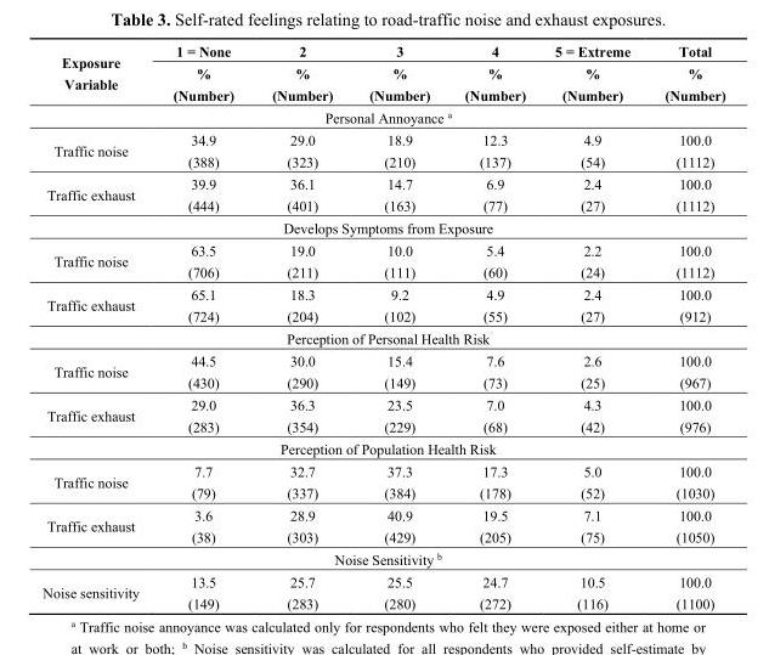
<table><thead><tr><td rowspan="2">Exposure Variable</td><td rowspan="2">1 = None % (Number)</td><td rowspan="2">2 % (Number)</td><td rowspan="2">3 % (Number)</td><td rowspan="2">4 % (Number)</td><td rowspan="2">5 = Extreme % (Number)</td><td rowspan="2">Total % (Number)</td></tr><tr></tr></thead><tbody><tr><td colspan="7">Personal Annoyance <sup>a</sup></td></tr><tr><td>Traffic noise</td><td>34.9 (388)</td><td>29.0 (323)</td><td>18.9 (210)</td><td>12.3 (137)</td><td>4.9 (54)</td><td>100.0 (1112)</td></tr><tr><td>Traffic exhaust</td><td>39.9 (444)</td><td>36.1 (401)</td><td>14.7 (163)</td><td>6.9 (77)</td><td>2.4 (27)</td><td>100.0 (1112)</td></tr><tr><td colspan="7">Develops Symptoms from Exposure</td></tr><tr><td>Traffic noise</td><td>63.5 (706)</td><td>19.0 (211)</td><td>10.0 (111)</td><td>5.4 (60)</td><td>2.2 (24)</td><td>100.0 (1112)</td></tr><tr><td>Traffic exhaust</td><td>65.1 (724)</td><td>18.3 (204)</td><td>9.2 (102)</td><td>4.9 (55)</td><td>2.4 (27)</td><td>100.0 (912)</td></tr><tr><td colspan="7">Perception of Personal Health Risk</td></tr><tr><td>Traffic noise</td><td>44.5 (430)</td><td>30.0 (290)</td><td>15.4 (149)</td><td>7.6 (73)</td><td>2.6 (25)</td><td>100.0 (967)</td></tr><tr><td>Traffic exhaust</td><td>29.0 (283)</td><td>36.3 (354)</td><td>23.5 (229)</td><td>7.0 (68)</td><td>4.3 (42)</td><td>100.0 (976)</td></tr><tr><td colspan="7">Perception of Population Health Risk</td></tr><tr><td>Traffic noise</td><td>7.7 (79)</td><td>32.7 (337)</td><td>37.3 (384)</td><td>17.3 (178)</td><td>5.0 (52)</td><td>100.0 (1030)</td></tr><tr><td>Traffic exhaust</td><td>3.6 (38)</td><td>28.9 (303)</td><td>40.9 (429)</td><td>19.5 (205)</td><td>7.1 (75)</td><td>100.0 (1050)</td></tr><tr><td colspan="7">Noise Sensitivity <sup>b</sup></td></tr><tr><td>Noise sensitivity</td><td>13.5 (149)</td><td>25.7 (283)</td><td>25.5 (280)</td><td>24.7 (272)</td><td>10.5 (116)</td><td>100.0 (1100)</td></tr></tbody></table>